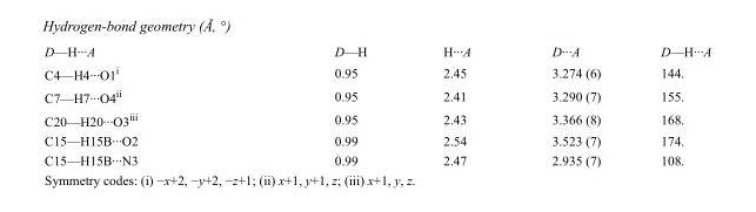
<table><tbody><tr><td>D—H···A</td><td>D—H</td><td>H···A</td><td>D···A</td><td>D—H···A</td></tr><tr><td>C4—H4···O1<sup>i</sup></td><td>0.95</td><td>2.45</td><td>3.274 (6)</td><td>144.</td></tr><tr><td>C7—H7···O4<sup>ii</sup></td><td>0.95</td><td>2.41</td><td>3.290 (7)</td><td>155.</td></tr><tr><td>C20—H20···O3<sup>iii</sup></td><td>0.95</td><td>2.43</td><td>3.366 (8)</td><td>168.</td></tr><tr><td>C15—H15B···O2</td><td>0.99</td><td>2.54</td><td>3.523 (7)</td><td>174.</td></tr><tr><td>C15—H15B···N3</td><td>0.99</td><td>2.47</td><td>2.935 (7)</td><td>108.</td></tr></tbody></table>